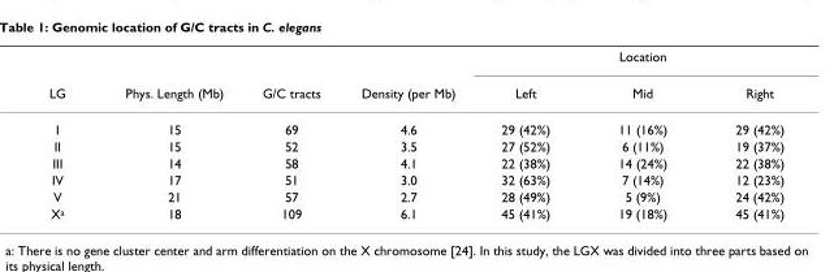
<table><thead><tr><td rowspan="2">LG</td><td rowspan="2">Phys. Length (Mb)</td><td rowspan="2">G/C tracts</td><td rowspan="2">Density (per Mb)</td><td colspan="3">Location</td></tr><tr><td>Left</td><td>Mid</td><td>Right</td></tr></thead><tbody><tr><td>I</td><td>15</td><td>69</td><td>4.6</td><td>29 (42%)</td><td>11 (16%)</td><td>29 (42%)</td></tr><tr><td>II</td><td>15</td><td>52</td><td>3.5</td><td>27 (52%)</td><td>6 (11%)</td><td>19 (37%)</td></tr><tr><td>III</td><td>14</td><td>58</td><td>4.1</td><td>22 (38%)</td><td>14 (24%)</td><td>22 (38%)</td></tr><tr><td>IV</td><td>17</td><td>51</td><td>3.0</td><td>32 (63%)</td><td>7 (14%)</td><td>12 (23%)</td></tr><tr><td>V</td><td>21</td><td>57</td><td>2.7</td><td>28 (49%)</td><td>5 (9%)</td><td>24 (42%)</td></tr><tr><td>X<sup>a</sup></td><td>18</td><td>109</td><td>6.1</td><td>45 (41%)</td><td>19 (18%)</td><td>45 (41%)</td></tr></tbody></table>